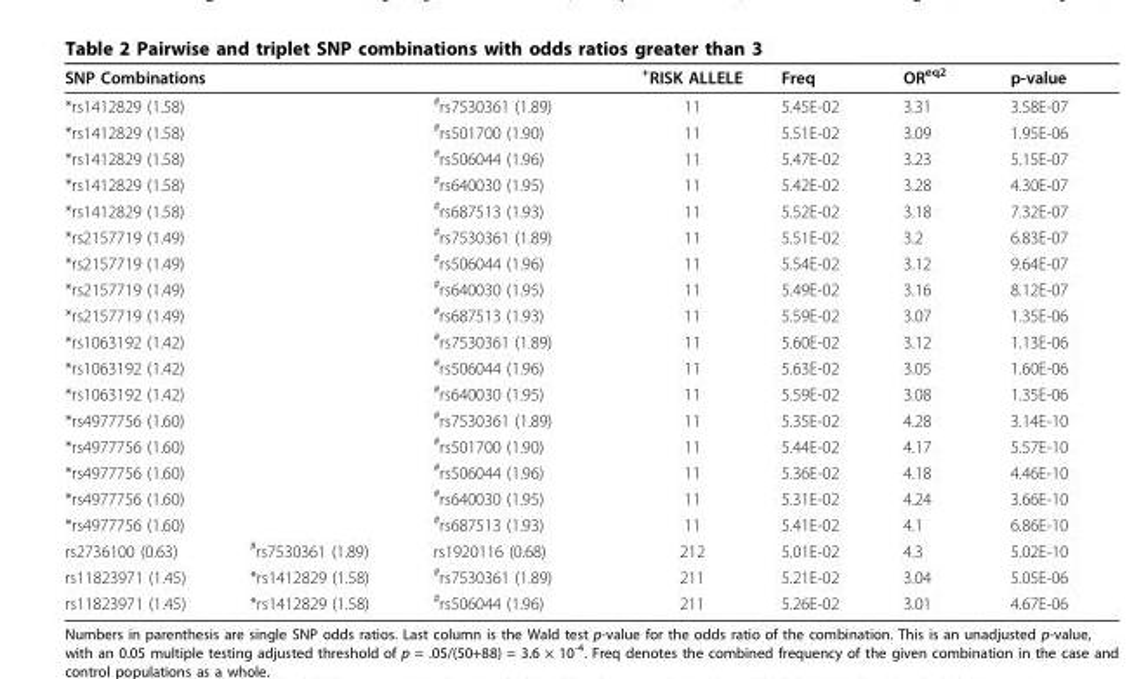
<table><thead><tr><td colspan="3">SNP Combinations</td><td><sup>+</sup>RISK ALLELE</td><td>Freq</td><td>OR<sup>eq2</sup></td><td>p-value</td></tr></thead><tbody><tr><td colspan="2">*rs1412829 (1.58)</td><td><sup>#</sup>rs7530361 (1.89)</td><td>11</td><td>5.45E-02</td><td>3.31</td><td>3.58E-07</td></tr><tr><td colspan="2">*rs1412829 (1.58)</td><td><sup>#</sup>rs501700 (1.90)</td><td>11</td><td>5.51E-02</td><td>3.09</td><td>1.95E-06</td></tr><tr><td colspan="2">*rs1412829 (1.58)</td><td><sup>#</sup>rs506044 (1.96)</td><td>11</td><td>5.47E-02</td><td>3.23</td><td>5.15E-07</td></tr><tr><td colspan="2">*rs1412829 (1.58)</td><td><sup>#</sup>rs640030 (1.95)</td><td>11</td><td>5.42E-02</td><td>3.28</td><td>4.30E-07</td></tr><tr><td colspan="2">*rs1412829 (1.58)</td><td><sup>#</sup>rs687513 (1.93)</td><td>11</td><td>5.52E-02</td><td>3.18</td><td>7.32E-07</td></tr><tr><td colspan="2">*rs2157719 (1.49)</td><td><sup>#</sup>rs7530361 (1.89)</td><td>11</td><td>5.51E-02</td><td>3.2</td><td>6.83E-07</td></tr><tr><td colspan="2">*rs2157719 (1.49)</td><td><sup>#</sup>rs506044 (1.96)</td><td>11</td><td>5.54E-02</td><td>3.12</td><td>9.64E-07</td></tr><tr><td colspan="2">*rs2157719 (1.49)</td><td><sup>#</sup>rs640030 (1.95)</td><td>11</td><td>5.49E-02</td><td>3.16</td><td>8.12E-07</td></tr><tr><td colspan="2">*rs2157719 (1.49)</td><td><sup>#</sup>rs687513 (1.93)</td><td>11</td><td>5.59E-02</td><td>3.07</td><td>1.35E-06</td></tr><tr><td colspan="2">*rs1063192 (1.42)</td><td><sup>#</sup>rs7530361 (1.89)</td><td>11</td><td>5.60E-02</td><td>3.12</td><td>1.13E-06</td></tr><tr><td colspan="2">*rs1063192 (1.42)</td><td><sup>#</sup>rs506044 (1.96)</td><td>11</td><td>5.63E-02</td><td>3.05</td><td>1.60E-06</td></tr><tr><td colspan="2">*rs1063192 (1.42)</td><td><sup>#</sup>rs640030 (1.95)</td><td>11</td><td>5.59E-02</td><td>3.08</td><td>1.35E-06</td></tr><tr><td colspan="2">*rs4977756 (1.60)</td><td><sup>#</sup>rs7530361 (1.89)</td><td>11</td><td>5.35E-02</td><td>4.28</td><td>3.14E-10</td></tr><tr><td colspan="2">*rs4977756 (1.60)</td><td><sup>#</sup>rs501700 (1.90)</td><td>11</td><td>5.44E-02</td><td>4.17</td><td>5.57E-10</td></tr><tr><td colspan="2">*rs4977756 (1.60)</td><td><sup>#</sup>rs506044 (1.96)</td><td>11</td><td>5.36E-02</td><td>4.18</td><td>4.46E-10</td></tr><tr><td colspan="2">*rs4977756 (1.60)</td><td><sup>#</sup>rs640030 (1.95)</td><td>11</td><td>5.31E-02</td><td>4.24</td><td>3.66E-10</td></tr><tr><td colspan="2">*rs4977756 (1.60)</td><td><sup>#</sup>rs687513 (1.93)</td><td>11</td><td>5.41E-02</td><td>4.1</td><td>6.86E-10</td></tr><tr><td>rs2736100 (0.63)</td><td><sup>#</sup>rs7530361 (1.89)</td><td>rs1920116 (0.68)</td><td>212</td><td>5.01E-02</td><td>4.3</td><td>5.02E-10</td></tr><tr><td>rs11823971 (1.45)</td><td>*rs1412829 (1.58)</td><td><sup>#</sup>rs7530361 (1.89)</td><td>211</td><td>5.21E-02</td><td>3.04</td><td>5.05E-06</td></tr><tr><td>rs11823971 (1.45)</td><td>*rs1412829 (1.58)</td><td><sup>#</sup>rs506044 (1.96)</td><td>211</td><td>5.26E-02</td><td>3.01</td><td>4.67E-06</td></tr></tbody></table>